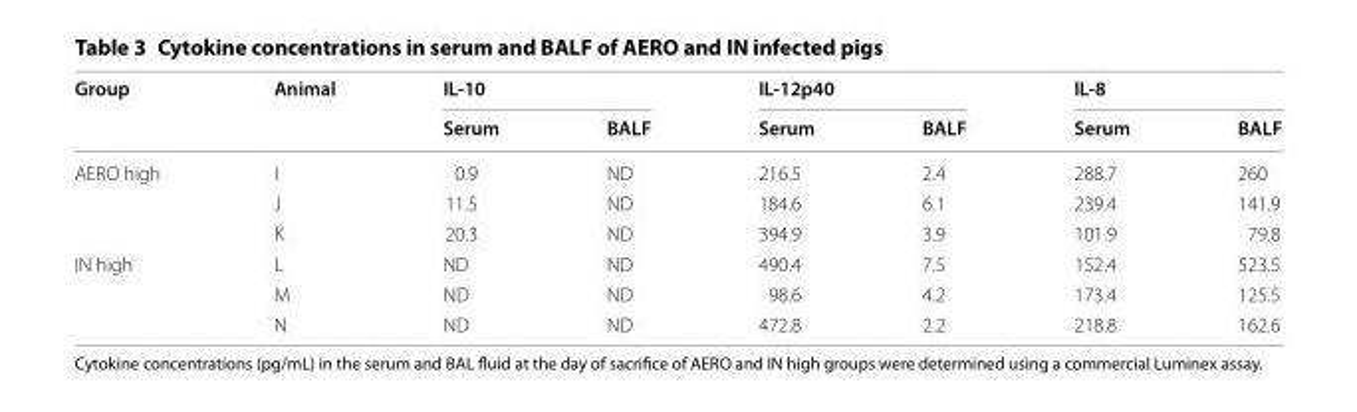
<table><thead><tr><td rowspan="2">Group</td><td rowspan="2">Animal</td><td colspan="2">IL‑10</td><td colspan="2">IL‑12p40</td><td colspan="2">IL‑8</td></tr><tr><td>Serum</td><td>BALF</td><td>Serum</td><td>BALF</td><td>Serum</td><td>BALF</td></tr></thead><tbody><tr><td rowspan="3">AERO high</td><td>I</td><td>0.9</td><td>ND</td><td>216.5</td><td>2.4</td><td>288.7</td><td>260</td></tr><tr><td>J</td><td>11.5</td><td>ND</td><td>184.6</td><td>6.1</td><td>239.4</td><td>141.9</td></tr><tr><td>K</td><td>20.3</td><td>ND</td><td>394.9</td><td>3.9</td><td>101.9</td><td>79.8</td></tr><tr><td rowspan="3">IN high</td><td>L</td><td>ND</td><td>ND</td><td>490.4</td><td>7.5</td><td>152.4</td><td>523.5</td></tr><tr><td>M</td><td>ND</td><td>ND</td><td>98.6</td><td>4.2</td><td>173.4</td><td>125.5</td></tr><tr><td>N</td><td>ND</td><td>ND</td><td>472.8</td><td>2.2</td><td>218.8</td><td>162.6</td></tr></tbody></table>